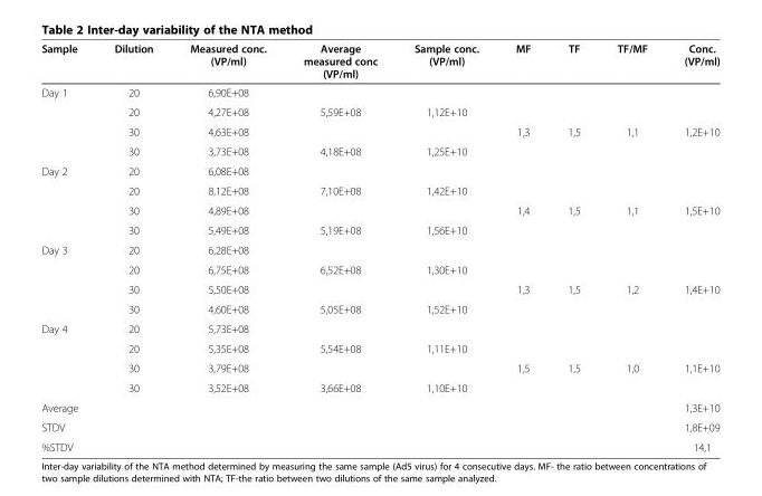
<table><thead><tr><td>Sample</td><td>Dilution</td><td>Measured conc. (VP/ml)</td><td>Average measured conc (VP/ml)</td><td>Sample conc. (VP/ml)</td><td>MF</td><td>TF</td><td>TF/MF</td><td>Conc. (VP/ml)</td></tr></thead><tbody><tr><td rowspan="4">Day 1</td><td>20</td><td>6,90E+08</td><td></td><td></td><td></td><td></td><td></td><td></td></tr><tr><td>20</td><td>4,27E+08</td><td>5,59E+08</td><td>1,12E+10</td><td></td><td></td><td></td><td></td></tr><tr><td>30</td><td>4,63E+08</td><td></td><td></td><td>1,3</td><td>1,5</td><td>1,1</td><td>1,2E+10</td></tr><tr><td>30</td><td>3,73E+08</td><td>4,18E+08</td><td>1,25E+10</td><td></td><td></td><td></td><td></td></tr><tr><td rowspan="4">Day 2</td><td>20</td><td>6,08E+08</td><td></td><td></td><td></td><td></td><td></td><td></td></tr><tr><td>20</td><td>8,12E+08</td><td>7,10E+08</td><td>1,42E+10</td><td></td><td></td><td></td><td></td></tr><tr><td>30</td><td>4,89E+08</td><td></td><td></td><td>1,4</td><td>1,5</td><td>1,1</td><td>1,5E+10</td></tr><tr><td>30</td><td>5,49E+08</td><td>5,19E+08</td><td>1,56E+10</td><td></td><td></td><td></td><td></td></tr><tr><td rowspan="4">Day 3</td><td>20</td><td>6,28E+08</td><td></td><td></td><td></td><td></td><td></td><td></td></tr><tr><td>20</td><td>6,75E+08</td><td>6,52E+08</td><td>1,30E+10</td><td></td><td></td><td></td><td></td></tr><tr><td>30</td><td>5,50E+08</td><td></td><td></td><td>1,3</td><td>1,5</td><td>1,2</td><td>1,4E+10</td></tr><tr><td>30</td><td>4,60E+08</td><td>5,05E+08</td><td>1,52E+10</td><td></td><td></td><td></td><td></td></tr><tr><td rowspan="4">Day 4</td><td>20</td><td>5,73E+08</td><td></td><td></td><td></td><td></td><td></td><td></td></tr><tr><td>20</td><td>5,35E+08</td><td>5,54E+08</td><td>1,11E+10</td><td></td><td></td><td></td><td></td></tr><tr><td>30</td><td>3,79E+08</td><td></td><td></td><td>1,5</td><td>1,5</td><td>1,0</td><td>1,1E+10</td></tr><tr><td>30</td><td>3,52E+08</td><td>3,66E+08</td><td>1,10E+10</td><td></td><td></td><td></td><td></td></tr><tr><td colspan="8">Average</td><td>1,3E+10</td></tr><tr><td colspan="8">STDV</td><td>1,8E+09</td></tr><tr><td colspan="8">%STDV</td><td>14,1</td></tr></tbody></table>